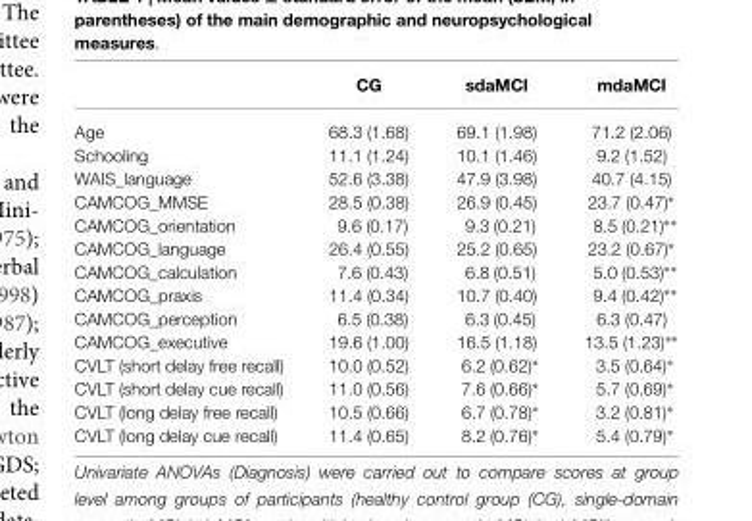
<table><thead><tr><td></td><td>CG</td><td>sdaMCI</td><td>mdaMCI</td></tr></thead><tbody><tr><td>Age</td><td>68.3 (1.68)</td><td>69.1 (1.98)</td><td>71.2 (2.06)</td></tr><tr><td>Schooling</td><td>11.1 (1.24)</td><td>10.1 (1.46)</td><td>9.2 (1.52)</td></tr><tr><td>WAIS_language</td><td>52.6 (3.38)</td><td>47.9 (3.98)</td><td>40.7 (4.15)</td></tr><tr><td>CAMCOG_MMSE</td><td>28.5 (0.38)</td><td>26.9 (0.45)</td><td>23.7 (0.47)∗</td></tr><tr><td>CAMCOG_orientation</td><td>9.6 (0.17)</td><td>9.3 (0.21)</td><td>8.5 (0.21)∗∗</td></tr><tr><td>CAMCOG_language</td><td>26.4 (0.55)</td><td>25.2 (0.65)</td><td>23.2 (0.67)∗</td></tr><tr><td>CAMCOG_calculation</td><td>7.6 (0.43)</td><td>6.8 (0.51)</td><td>5.0 (0.53)∗∗</td></tr><tr><td>CAMCOG_praxis</td><td>11.4 (0.34)</td><td>10.7 (0.40)</td><td>9.4 (0.42)∗∗</td></tr><tr><td>CAMCOG_perception</td><td>6.5 (0.38)</td><td>6.3 (0.45)</td><td>6.3 (0.47)</td></tr><tr><td>CAMCOG_executive</td><td>19.6 (1.00)</td><td>16.5 (1.18)</td><td>13.5 (1.23)∗∗</td></tr><tr><td>CVLT (short delay free recall)</td><td>10.0 (0.52)</td><td>6.2 (0.62)∗</td><td>3.5 (0.64)∗</td></tr><tr><td>CVLT (short delay cue recall)</td><td>11.0 (0.56)</td><td>7.6 (0.66)∗</td><td>5.7 (0.69)∗</td></tr><tr><td>CVLT (long delay free recall)</td><td>10.5 (0.66)</td><td>6.7 (0.78)∗</td><td>3.2 (0.81)∗</td></tr><tr><td>CVLT (long delay cue recall)</td><td>11.4 (0.65)</td><td>8.2 (0.76)∗</td><td>5.4 (0.79)∗</td></tr></tbody></table>